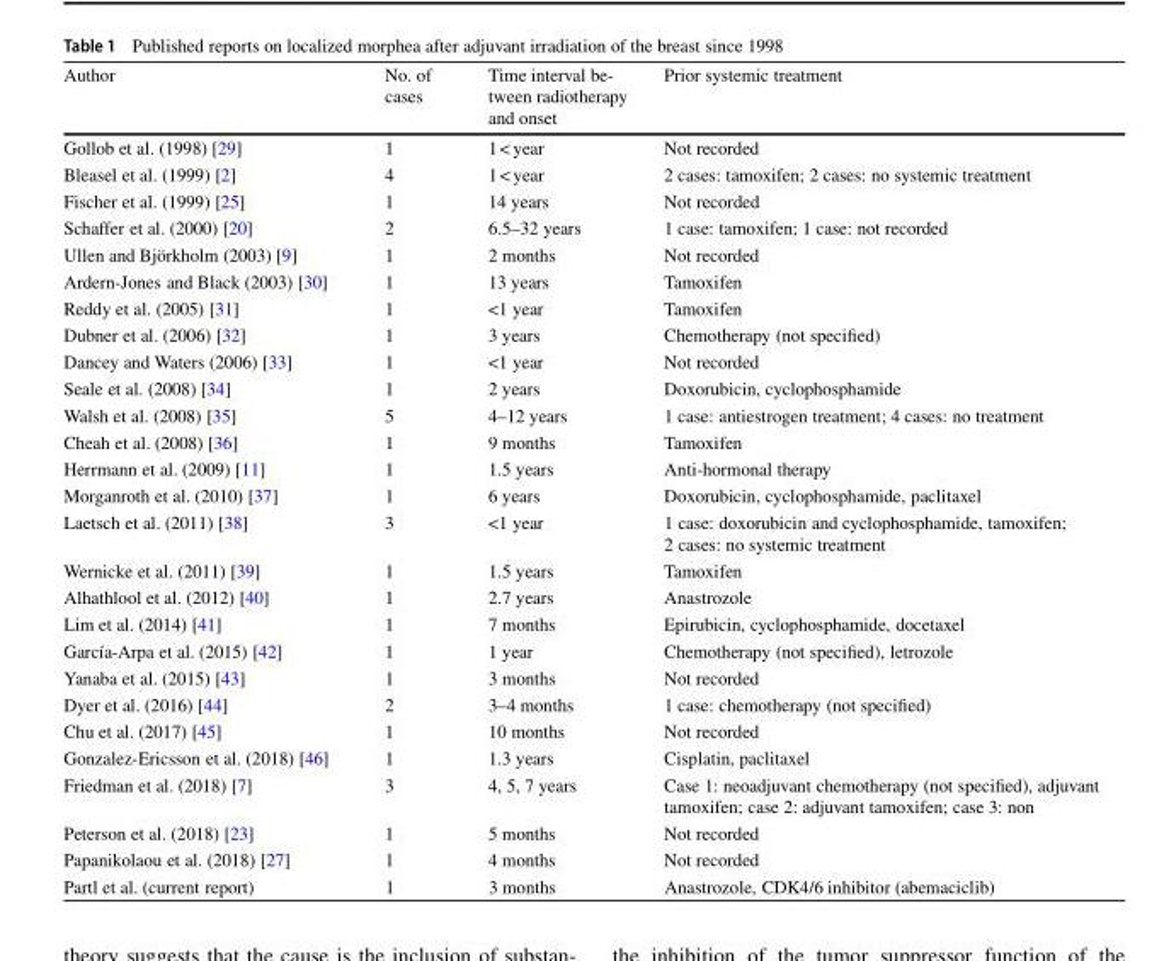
<table><thead><tr><td>Author</td><td>No. of cases</td><td>Time interval be- tween radiotherapy and onset</td><td>Prior systemic treatment</td></tr></thead><tbody><tr><td>Gollob et al. (1998) [29]</td><td>1</td><td>1&lt; year</td><td>Not recorded</td></tr><tr><td>Bleasel et al. (1999) [2]</td><td>4</td><td>1&lt; year</td><td>2 cases: tamoxifen; 2 cases: no systemic treatment</td></tr><tr><td>Fischer et al. (1999) [25]</td><td>1</td><td>14 years</td><td>Not recorded</td></tr><tr><td>Schaffer et al. (2000) [20]</td><td>2</td><td>6.5–32 years</td><td>1 case: tamoxifen; 1 case: not recorded</td></tr><tr><td>Ullen and Björkholm (2003) [9]</td><td>1</td><td>2 months</td><td>Not recorded</td></tr><tr><td>Ardern-Jones and Black (2003) [30]</td><td>1</td><td>13 years</td><td>Tamoxifen</td></tr><tr><td>Reddy et al. (2005) [31]</td><td>1</td><td>&lt;1 year</td><td>Tamoxifen</td></tr><tr><td>Dubner et al. (2006) [32]</td><td>1</td><td>3 years</td><td>Chemotherapy (not specified)</td></tr><tr><td>Dancey and Waters (2006) [33]</td><td>1</td><td>&lt;1 year</td><td>Not recorded</td></tr><tr><td>Seale et al. (2008) [34]</td><td>1</td><td>2 years</td><td>Doxorubicin, cyclophosphamide</td></tr><tr><td>Walsh et al. (2008) [35]</td><td>5</td><td>4–12 years</td><td>1 case: antiestrogen treatment; 4 cases: no treatment</td></tr><tr><td>Cheah et al. (2008) [36]</td><td>1</td><td>9 months</td><td>Tamoxifen</td></tr><tr><td>Herrmann et al. (2009) [11]</td><td>1</td><td>1.5 years</td><td>Anti-hormonal therapy</td></tr><tr><td>Morganroth et al. (2010) [37]</td><td>1</td><td>6 years</td><td>Doxorubicin, cyclophosphamide, paclitaxel</td></tr><tr><td>Laetsch et al. (2011) [38]</td><td>3</td><td>&lt;1 year</td><td>1 case: doxorubicin and cyclophosphamide, tamoxifen; 2 cases: no systemic treatment</td></tr><tr><td>Wernicke et al. (2011) [39]</td><td>1</td><td>1.5 years</td><td>Tamoxifen</td></tr><tr><td>Alhathlool et al. (2012) [40]</td><td>1</td><td>2.7 years</td><td>Anastrozole</td></tr><tr><td>Lim et al. (2014) [41]</td><td>1</td><td>7 months</td><td>Epirubicin, cyclophosphamide, docetaxel</td></tr><tr><td>García-Arpa et al. (2015) [42]</td><td>1</td><td>1 year</td><td>Chemotherapy (not specified), letrozole</td></tr><tr><td>Yanaba et al. (2015) [43]</td><td>1</td><td>3 months</td><td>Not recorded</td></tr><tr><td>Dyer et al. (2016) [44]</td><td>2</td><td>3–4 months</td><td>1 case: chemotherapy (not specified)</td></tr><tr><td>Chu et al. (2017) [45]</td><td>1</td><td>10 months</td><td>Not recorded</td></tr><tr><td>Gonzalez-Ericsson et al. (2018) [46]</td><td>1</td><td>1.3 years</td><td>Cisplatin, paclitaxel</td></tr><tr><td>Friedman et al. (2018) [7]</td><td>3</td><td>4, 5, 7 years</td><td>Case 1: neoadjuvant chemotherapy (not specified), adjuvant tamoxifen; case 2: adjuvant tamoxifen; case 3: non</td></tr><tr><td>Peterson et al. (2018) [23]</td><td>1</td><td>5 months</td><td>Not recorded</td></tr><tr><td>Papanikolaou et al. (2018) [27]</td><td>1</td><td>4 months</td><td>Not recorded</td></tr><tr><td>Partl et al. (current report)</td><td>1</td><td>3 months</td><td>Anastrozole, CDK4/6 inhibitor (abemaciclib)</td></tr></tbody></table>